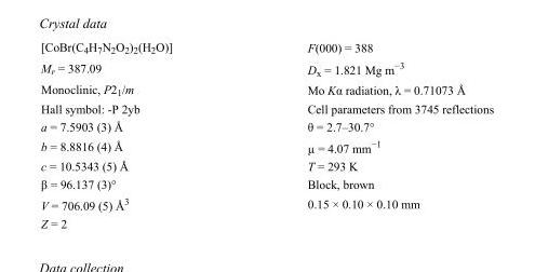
<table><tbody><tr><td>[CoBr(C<sub>4</sub>H<sub>7</sub>N<sub>2</sub>O<sub>2</sub>)<sub>2</sub>(H<sub>2</sub>O)]</td><td>F(000) = 388</td></tr><tr><td>M<sub>r</sub> = 387.09</td><td>D<sub>x</sub> = 1.821 Mg m<sup>−3</sup></td></tr><tr><td>Monoclinic, P2<sub>1</sub>/m</td><td>Mo Kα radiation, λ = 0.71073 Å</td></tr><tr><td>Hall symbol: -P 2yb</td><td>Cell parameters from 3745 reflections</td></tr><tr><td>a = 7.5903 (3) Å</td><td>θ = 2.7–30.7°</td></tr><tr><td>b = 8.8816 (4) Å</td><td>µ = 4.07 mm<sup>−1</sup></td></tr><tr><td>c = 10.5343 (5) Å</td><td>T = 293 K</td></tr><tr><td>β = 96.137 (3)°</td><td>Block, brown</td></tr><tr><td>V = 706.09 (5) Å<sup>3</sup></td><td>0.15 × 0.10 × 0.10 mm</td></tr><tr><td>Z = 2</td><td></td></tr></tbody></table>